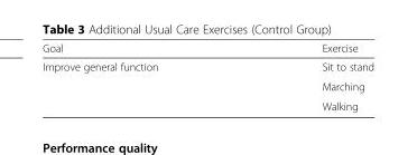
<table><thead><tr><td>Goal</td><td>Exercise</td></tr></thead><tbody><tr><td rowspan="3">Improve general function</td><td>Sit to stand</td></tr><tr><td>Marching</td></tr><tr><td>Walking</td></tr></tbody></table>